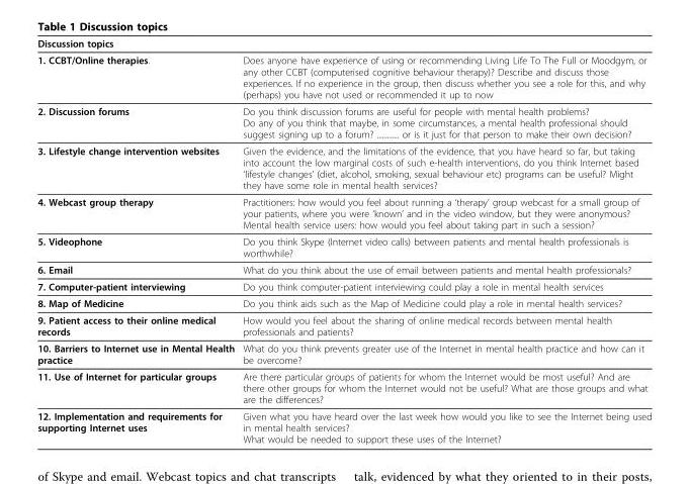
<table><thead><tr><td colspan="2">Discussion topics</td></tr><tr><td>1. CCBT/Online therapies.</td><td>Does anyone have experience of using or recommending Living Life To The Full or Moodgym, or any other CCBT (computerised cognitive behaviour therapy)? Describe and discuss those experiences. If no experience in the group, then discuss whether you see a role for this, and why (perhaps) you have not used or recommended it up to now</td></tr></thead><tbody><tr><td>2. Discussion forums</td><td>Do you think discussion forums are useful for people with mental health problems? Do any of you think that maybe, in some circumstances, a mental health professional should suggest signing up to a forum? ............. or is it just for that person to make their own decision?</td></tr><tr><td>3. Lifestyle change intervention websites</td><td>Given the evidence, and the limitations of the evidence, that you have heard so far, but taking into account the low marginal costs of such e-health interventions, do you think Internet based ‘lifestyle changes’ (diet, alcohol, smoking, sexual behaviour etc) programs can be useful? Might they have some role in mental health services?</td></tr><tr><td>4. Webcast group therapy</td><td>Practitioners: how would you feel about running a ‘therapy’ group webcast for a small group of your patients, where you were ‘known’ and in the video window, but they were anonymous? Mental health service users: how would you feel about taking part in such a session?</td></tr><tr><td>5. Videophone</td><td>Do you think Skype (Internet video calls) between patients and mental health professionals is worthwhile?</td></tr><tr><td>6. Email</td><td>What do you think about the use of email between patients and mental health professionals?</td></tr><tr><td>7. Computer-patient interviewing</td><td>Do you think computer-patient interviewing could play a role in mental health services</td></tr><tr><td>8. Map of Medicine</td><td>Do you think aids such as the Map of Medicine could play a role in mental health services?</td></tr><tr><td>9. Patient access to their online medical records</td><td>How would you feel about the sharing of online medical records between mental health professionals and patients?</td></tr><tr><td>10. Barriers to Internet use in Mental Health practice</td><td>What do you think prevents greater use of the Internet in mental health practice and how can it be overcome?</td></tr><tr><td>11. Use of Internet for particular groups</td><td>Are there particular groups of patients for whom the Internet would be most useful? And are there other groups for whom the Internet would not be useful? What are those groups and what are the differences?</td></tr><tr><td>12. Implementation and requirements for supporting Internet uses</td><td>Given what you have heard over the last week how would you like to see the Internet being used in mental health services? What would be needed to support these uses of the Internet?</td></tr></tbody></table>